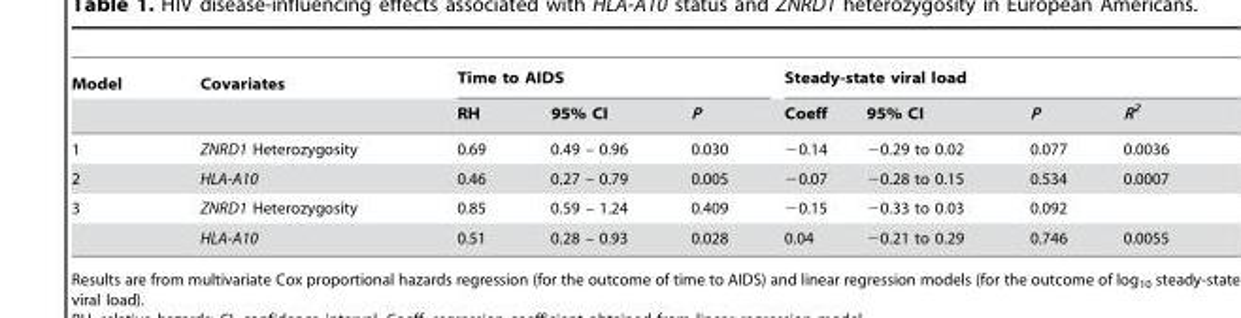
<table><thead><tr><td rowspan="2">Model</td><td rowspan="2">Covariates</td><td colspan="3">Time to AIDS</td><td colspan="4">Steady-state viral load</td></tr><tr><td>RH</td><td>95% CI</td><td>P</td><td>Coeff</td><td>95% CI</td><td>P</td><td>R<sup>2</sup></td></tr></thead><tbody><tr><td>1</td><td>ZNRD1 Heterozygosity</td><td>0.69</td><td>0.49 – 0.96</td><td>0.030</td><td>−0.14</td><td>−0.29 to 0.02</td><td>0.077</td><td>0.0036</td></tr><tr><td>2</td><td>HLA-A10</td><td>0.46</td><td>0.27 – 0.79</td><td>0.005</td><td>−0.07</td><td>−0.28 to 0.15</td><td>0.534</td><td>0.0007</td></tr><tr><td rowspan="2">3</td><td>ZNRD1 Heterozygosity</td><td>0.85</td><td>0.59 – 1.24</td><td>0.409</td><td>−0.15</td><td>−0.33 to 0.03</td><td>0.092</td><td></td></tr><tr><td>HLA-A10</td><td>0.51</td><td>0.28 – 0.93</td><td>0.028</td><td>0.04</td><td>−0.21 to 0.29</td><td>0.746</td><td>0.0055</td></tr></tbody></table>